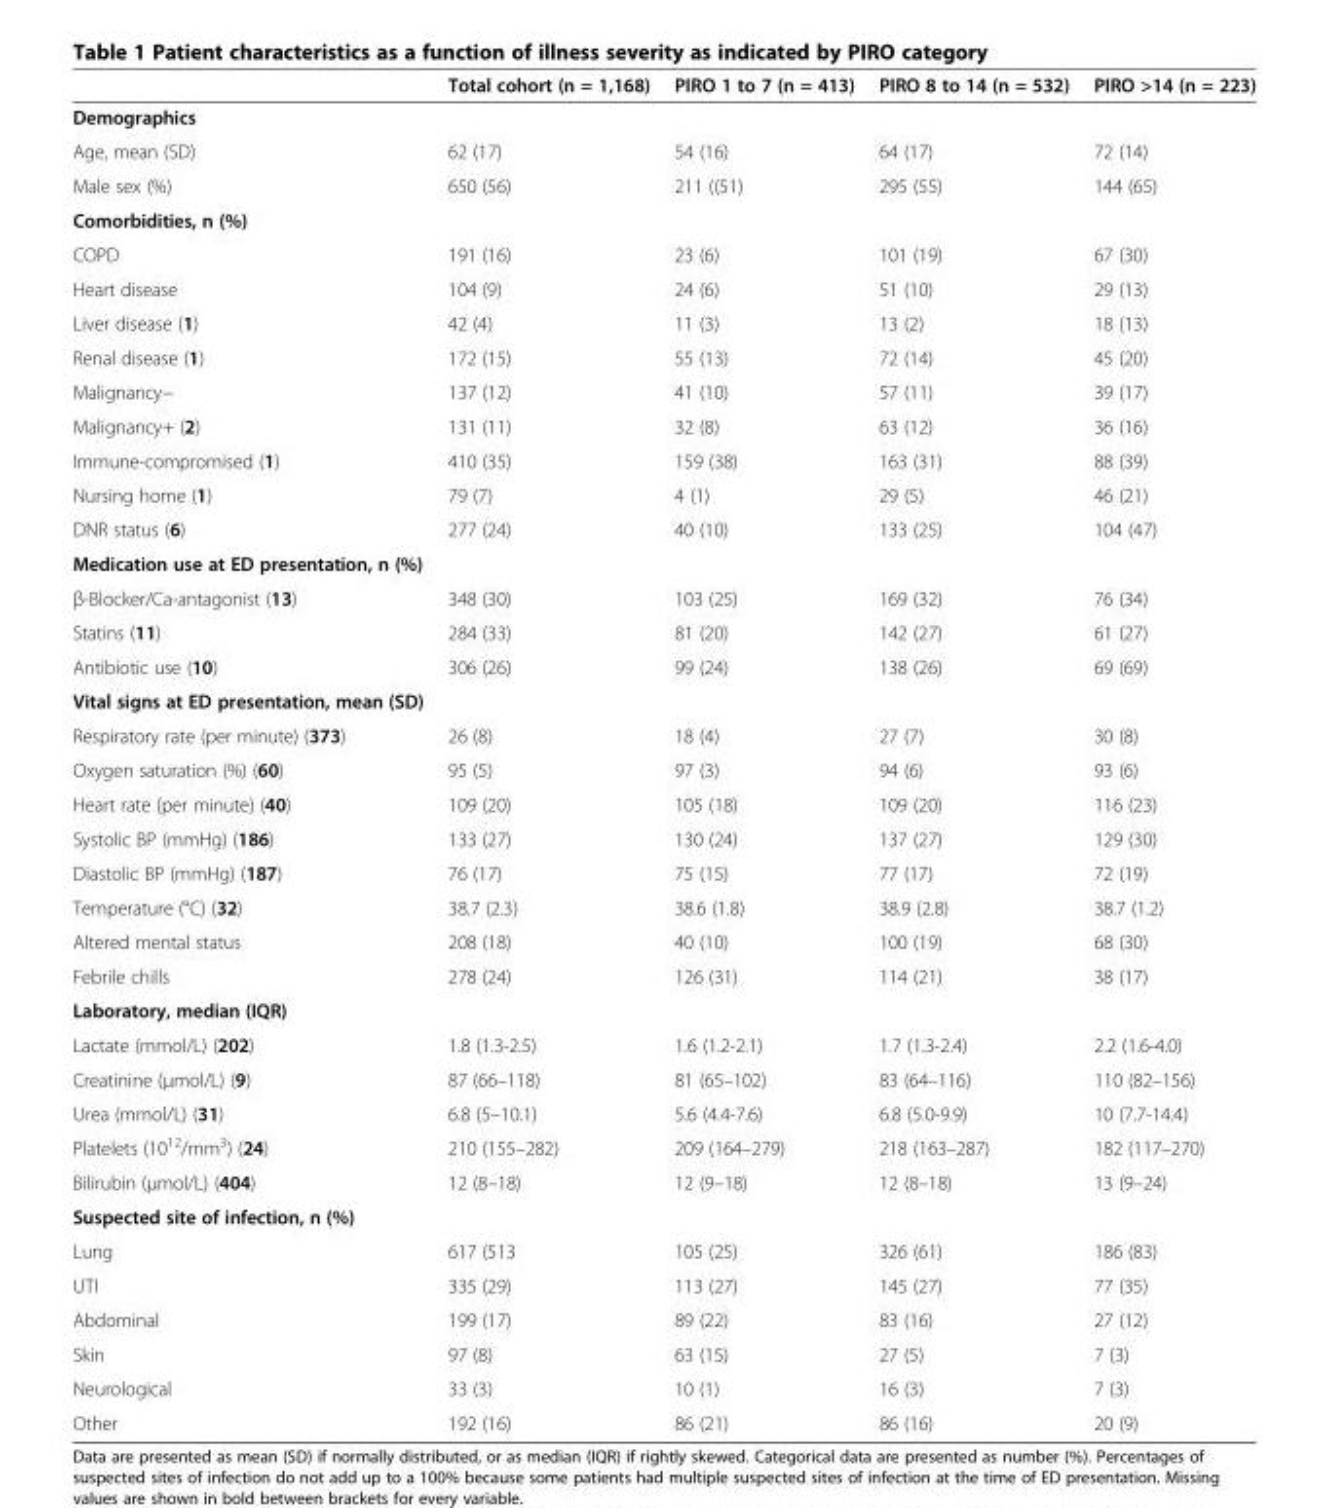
<table><thead><tr><td></td><td>Total cohort (n = 1,168)</td><td>PIRO 1 to 7 (n = 413)</td><td>PIRO 8 to 14 (n = 532)</td><td>PIRO &gt;14 (n = 223)</td></tr></thead><tbody><tr><td colspan="5">Demographics</td></tr><tr><td>Age, mean (SD)</td><td>62 (17)</td><td>54 (16)</td><td>64 (17)</td><td>72 (14)</td></tr><tr><td>Male sex (%)</td><td>650 (56)</td><td>211 ((51)</td><td>295 (55)</td><td>144 (65)</td></tr><tr><td colspan="5">Comorbidities, n (%)</td></tr><tr><td>COPD</td><td>191 (16)</td><td>23 (6)</td><td>101 (19)</td><td>67 (30)</td></tr><tr><td>Heart disease</td><td>104 (9)</td><td>24 (6)</td><td>51 (10)</td><td>29 (13)</td></tr><tr><td>Liver disease (1)</td><td>42 (4)</td><td>11 (3)</td><td>13 (2)</td><td>18 (13)</td></tr><tr><td>Renal disease (1)</td><td>172 (15)</td><td>55 (13)</td><td>72 (14)</td><td>45 (20)</td></tr><tr><td>Malignancy−</td><td>137 (12)</td><td>41 (10)</td><td>57 (11)</td><td>39 (17)</td></tr><tr><td>Malignancy+ (2)</td><td>131 (11)</td><td>32 (8)</td><td>63 (12)</td><td>36 (16)</td></tr><tr><td>Immune-compromised (1)</td><td>410 (35)</td><td>159 (38)</td><td>163 (31)</td><td>88 (39)</td></tr><tr><td>Nursing home (1)</td><td>79 (7)</td><td>4 (1)</td><td>29 (5)</td><td>46 (21)</td></tr><tr><td>DNR status (6)</td><td>277 (24)</td><td>40 (10)</td><td>133 (25)</td><td>104 (47)</td></tr><tr><td colspan="5">Medication use at ED presentation, n (%)</td></tr><tr><td>β-Blocker/Ca-antagonist (13)</td><td>348 (30)</td><td>103 (25)</td><td>169 (32)</td><td>76 (34)</td></tr><tr><td>Statins (11)</td><td>284 (33)</td><td>81 (20)</td><td>142 (27)</td><td>61 (27)</td></tr><tr><td>Antibiotic use (10)</td><td>306 (26)</td><td>99 (24)</td><td>138 (26)</td><td>69 (69)</td></tr><tr><td colspan="5">Vital signs at ED presentation, mean (SD)</td></tr><tr><td>Respiratory rate (per minute) (373)</td><td>26 (8)</td><td>18 (4)</td><td>27 (7)</td><td>30 (8)</td></tr><tr><td>Oxygen saturation (%) (60)</td><td>95 (5)</td><td>97 (3)</td><td>94 (6)</td><td>93 (6)</td></tr><tr><td>Heart rate (per minute) (40)</td><td>109 (20)</td><td>105 (18)</td><td>109 (20)</td><td>116 (23)</td></tr><tr><td>Systolic BP (mmHg) (186)</td><td>133 (27)</td><td>130 (24)</td><td>137 (27)</td><td>129 (30)</td></tr><tr><td>Diastolic BP (mmHg) (187)</td><td>76 (17)</td><td>75 (15)</td><td>77 (17)</td><td>72 (19)</td></tr><tr><td>Temperature (°C) (32)</td><td>38.7 (2.3)</td><td>38.6 (1.8)</td><td>38.9 (2.8)</td><td>38.7 (1.2)</td></tr><tr><td>Altered mental status</td><td>208 (18)</td><td>40 (10)</td><td>100 (19)</td><td>68 (30)</td></tr><tr><td>Febrile chills</td><td>278 (24)</td><td>126 (31)</td><td>114 (21)</td><td>38 (17)</td></tr><tr><td colspan="5">Laboratory, median (IQR)</td></tr><tr><td>Lactate (mmol/L) (202)</td><td>1.8 (1.3-2.5)</td><td>1.6 (1.2-2.1)</td><td>1.7 (1.3-2.4)</td><td>2.2 (1.6-4.0)</td></tr><tr><td>Creatinine (μmol/L) (9)</td><td>87 (66–118)</td><td>81 (65–102)</td><td>83 (64–116)</td><td>110 (82–156)</td></tr><tr><td>Urea (mmol/L) (31)</td><td>6.8 (5–10.1)</td><td>5.6 (4.4-7.6)</td><td>6.8 (5.0-9.9)</td><td>10 (7.7-14.4)</td></tr><tr><td>Platelets (10<sup>12</sup>/mm<sup>3</sup>) (24)</td><td>210 (155–282)</td><td>209 (164–279)</td><td>218 (163–287)</td><td>182 (117–270)</td></tr><tr><td>Bilirubin (μmol/L) (404)</td><td>12 (8–18)</td><td>12 (9–18)</td><td>12 (8–18)</td><td>13 (9–24)</td></tr><tr><td colspan="5">Suspected site of infection, n (%)</td></tr><tr><td>Lung</td><td>617 (513</td><td>105 (25)</td><td>326 (61)</td><td>186 (83)</td></tr><tr><td>UTI</td><td>335 (29)</td><td>113 (27)</td><td>145 (27)</td><td>77 (35)</td></tr><tr><td>Abdominal</td><td>199 (17)</td><td>89 (22)</td><td>83 (16)</td><td>27 (12)</td></tr><tr><td>Skin</td><td>97 (8)</td><td>63 (15)</td><td>27 (5)</td><td>7 (3)</td></tr><tr><td>Neurological</td><td>33 (3)</td><td>10 (1)</td><td>16 (3)</td><td>7 (3)</td></tr><tr><td>Other</td><td>192 (16)</td><td>86 (21)</td><td>86 (16)</td><td>20 (9)</td></tr></tbody></table>